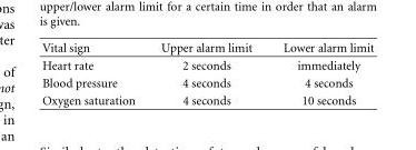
<table><thead><tr><td>Vital sign</td><td>Upper alarm limit</td><td>Lower alarm limit</td></tr></thead><tbody><tr><td>Heart rate</td><td>2 seconds</td><td>immediately</td></tr><tr><td>Blood pressure</td><td>4 seconds</td><td>4 seconds</td></tr><tr><td>Oxygen saturation</td><td>4 seconds</td><td>10 seconds</td></tr></tbody></table>